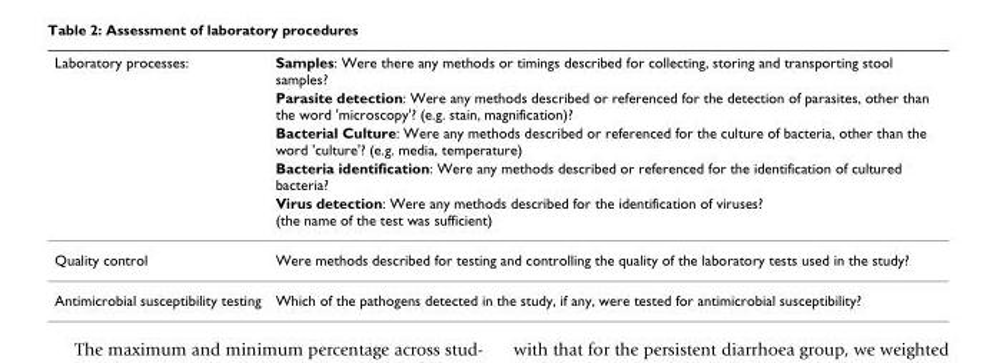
<table><thead><tr><td rowspan="5">Laboratory processes:</td><td rowspan="5">Samples: Were there any methods or timings described for collecting, storing and transporting stool samples? Parasite detection: Were any methods described or referenced for the detection of parasites, other than the word &#x27;microscopy&#x27;? (e.g. stain, magnification)? Bacterial Culture: Were any methods described or referenced for the culture of bacteria, other than the word &#x27;culture&#x27;? (e.g. media, temperature) Bacteria identification: Were any methods described or referenced for the identification of cultured bacteria? Virus detection: Were any methods described for the identification of viruses? (the name of the test was sufficient)</td></tr><tr></tr><tr></tr><tr></tr><tr></tr></thead><tbody><tr><td>Quality control</td><td>Were methods described for testing and controlling the quality of the laboratory tests used in the study?</td></tr><tr><td>Antimicrobial susceptibility testing</td><td>Which of the pathogens detected in the study, if any, were tested for antimicrobial susceptibility?</td></tr></tbody></table>